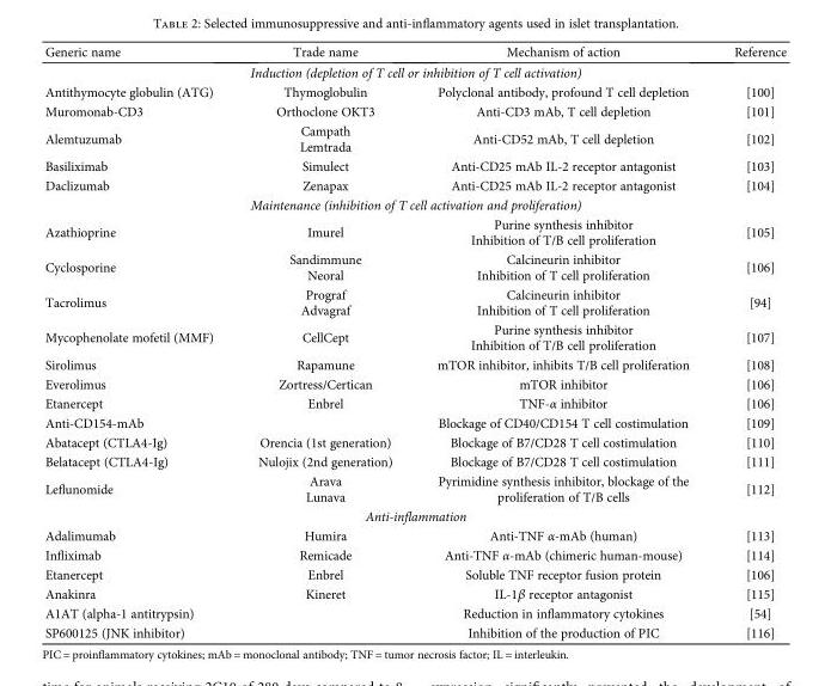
<table><thead><tr><td>Generic name</td><td>Trade name</td><td>Mechanism of action</td><td>Reference</td></tr></thead><tbody><tr><td colspan="4">Induction (depletion of T cell or inhibition of T cell activation)</td></tr><tr><td>Antithymocyte globulin (ATG)</td><td>Thymoglobulin</td><td>Polyclonal antibody, profound T cell depletion</td><td>[100]</td></tr><tr><td>Muromonab-CD3</td><td>Orthoclone OKT3</td><td>Anti-CD3 mAb, T cell depletion</td><td>[101]</td></tr><tr><td>Alemtuzumab</td><td>Campath Lemtrada</td><td>Anti-CD52 mAb, T cell depletion</td><td>[102]</td></tr><tr><td>Basiliximab</td><td>Simulect</td><td>Anti-CD25 mAb IL-2 receptor antagonist</td><td>[103]</td></tr><tr><td>Daclizumab</td><td>Zenapax</td><td>Anti-CD25 mAb IL-2 receptor antagonist</td><td>[104]</td></tr><tr><td colspan="4">Maintenance (inhibition of T cell activation and proliferation)</td></tr><tr><td>Azathioprine</td><td>Imurel</td><td>Purine synthesis inhibitor Inhibition of T/B cell proliferation</td><td>[105]</td></tr><tr><td>Cyclosporine</td><td>Sandimmune Neoral</td><td>Calcineurin inhibitor Inhibition of T cell proliferation</td><td>[106]</td></tr><tr><td>Tacrolimus</td><td>Prograf Advagraf</td><td>Calcineurin inhibitor Inhibition of T cell proliferation</td><td>[94]</td></tr><tr><td>Mycophenolate mofetil (MMF)</td><td>CellCept</td><td>Purine synthesis inhibitor Inhibition of T/B cell proliferation</td><td>[107]</td></tr><tr><td>Sirolimus</td><td>Rapamune</td><td>mTOR inhibitor, inhibits T/B cell proliferation</td><td>[108]</td></tr><tr><td>Everolimus</td><td>Zortress/Certican</td><td>mTOR inhibitor</td><td>[106]</td></tr><tr><td>Etanercept</td><td>Enbrel</td><td>TNF-α inhibitor</td><td>[106]</td></tr><tr><td>Anti-CD154-mAb</td><td></td><td>Blockage of CD40/CD154 T cell costimulation</td><td>[109]</td></tr><tr><td>Abatacept (CTLA4-Ig)</td><td>Orencia (1st generation)</td><td>Blockage of B7/CD28 T cell costimulation</td><td>[110]</td></tr><tr><td>Belatacept (CTLA4-Ig)</td><td>Nulojix (2nd generation)</td><td>Blockage of B7/CD28 T cell costimulation</td><td>[111]</td></tr><tr><td>Leflunomide</td><td>Arava Lunava</td><td>Pyrimidine synthesis inhibitor, blockage of the proliferation of T/B cells</td><td>[112]</td></tr><tr><td colspan="4">Anti-inflammation</td></tr><tr><td>Adalimumab</td><td>Humira</td><td>Anti-TNF α-mAb (human)</td><td>[113]</td></tr><tr><td>Infliximab</td><td>Remicade</td><td>Anti-TNF α-mAb (chimeric human-mouse)</td><td>[114]</td></tr><tr><td>Etanercept</td><td>Enbrel</td><td>Soluble TNF receptor fusion protein</td><td>[106]</td></tr><tr><td>Anakinra</td><td>Kineret</td><td>IL-1β receptor antagonist</td><td>[115]</td></tr><tr><td>A1AT (alpha-1 antitrypsin)</td><td></td><td>Reduction in inflammatory cytokines</td><td>[54]</td></tr><tr><td>SP600125 (JNK inhibitor)</td><td></td><td>Inhibition of the production of PIC</td><td>[116]</td></tr></tbody></table>